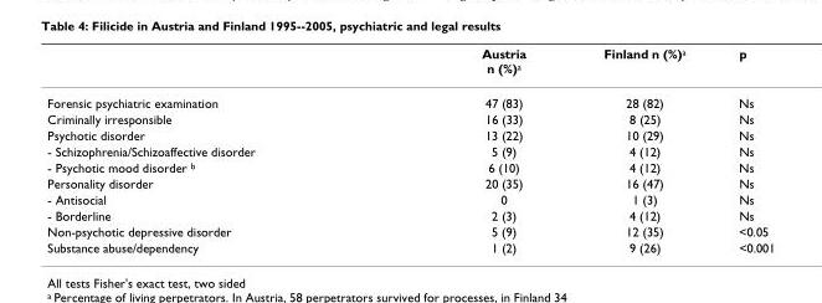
<table><thead><tr><td></td><td>Austria n (%)<sup>a</sup></td><td>Finland n (%)<sup>a</sup></td><td>p</td></tr></thead><tbody><tr><td>Forensic psychiatric examination</td><td>47 (83)</td><td>28 (82)</td><td>Ns</td></tr><tr><td>Criminally irresponsible</td><td>16 (33)</td><td>8 (25)</td><td>Ns</td></tr><tr><td>Psychotic disorder</td><td>13 (22)</td><td>10 (29)</td><td>Ns</td></tr><tr><td>- Schizophrenia/Schizoaffective disorder</td><td>5 (9)</td><td>4 (12)</td><td>Ns</td></tr><tr><td>- Psychotic mood disorder <sup>b</sup></td><td>6 (10)</td><td>4 (12)</td><td>Ns</td></tr><tr><td>Personality disorder</td><td>20 (35)</td><td>16 (47)</td><td>Ns</td></tr><tr><td>- Antisocial</td><td>0</td><td>1 (3)</td><td>Ns</td></tr><tr><td>- Borderline</td><td>2 (3)</td><td>4 (12)</td><td>Ns</td></tr><tr><td>Non-psychotic depressive disorder</td><td>5 (9)</td><td>12 (35)</td><td>&lt;0.05</td></tr><tr><td>Substance abuse/dependency</td><td>1 (2)</td><td>9 (26)</td><td>&lt;0.001</td></tr></tbody></table>